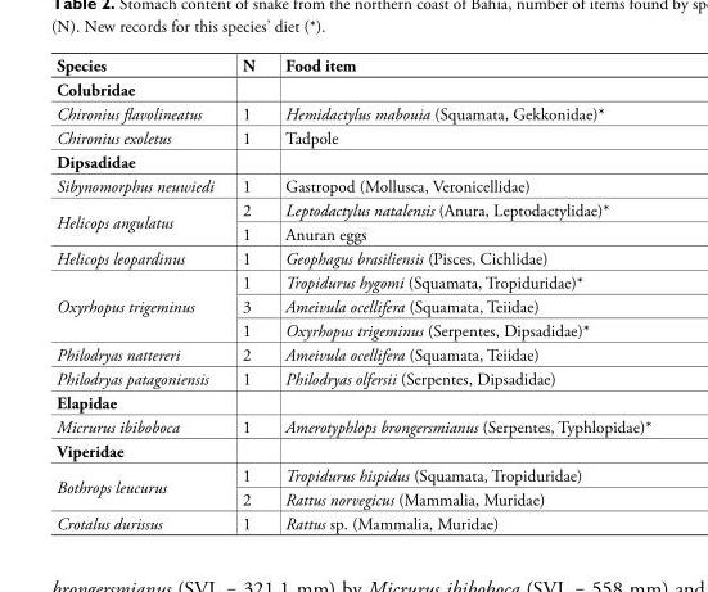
<table><thead><tr><td>Species</td><td>N</td><td>Food item</td></tr></thead><tbody><tr><td colspan="3">Colubridae</td></tr><tr><td>Chironius flavolineatus</td><td>1</td><td>Hemidactylus mabouia (Squamata, Gekkonidae)*</td></tr><tr><td>Chironius exoletus</td><td>1</td><td>Tadpole</td></tr><tr><td colspan="3">Dipsadidae</td></tr><tr><td>Sibynomorphus neuwiedi</td><td>1</td><td>Gastropod (Mollusca, Veronicellidae)</td></tr><tr><td rowspan="2">Helicops angulatus</td><td>2</td><td>Leptodactylus natalensis (Anura, Leptodactylidae)*</td></tr><tr><td>1</td><td>Anuran eggs</td></tr><tr><td>Helicops leopardinus</td><td>1</td><td>Geophagus brasiliensis (Pisces, Cichlidae)</td></tr><tr><td rowspan="3">Oxyrhopus trigeminus</td><td>1</td><td>Tropidurus hygomi (Squamata, Tropiduridae)*</td></tr><tr><td>3</td><td>Ameivula ocellifera (Squamata, Teiidae)</td></tr><tr><td>1</td><td>Oxyrhopus trigeminus (Serpentes, Dipsadidae)*</td></tr><tr><td>Philodryas nattereri</td><td>2</td><td>Ameivula ocellifera (Squamata, Teiidae)</td></tr><tr><td>Philodryas patagoniensis</td><td>1</td><td>Philodryas olfersii (Serpentes, Dipsadidae)</td></tr><tr><td colspan="3">Elapidae</td></tr><tr><td>Micrurus ibiboboca</td><td>1</td><td>Amerotyphlops brongersmianus (Serpentes, Typhlopidae)*</td></tr><tr><td colspan="3">Viperidae</td></tr><tr><td rowspan="2">Bothrops leucurus</td><td>1</td><td>Tropidurus hispidus (Squamata, Tropiduridae)</td></tr><tr><td>2</td><td>Rattus norvegicus (Mammalia, Muridae)</td></tr><tr><td>Crotalus durissus</td><td>1</td><td>Rattus sp. (Mammalia, Muridae)</td></tr></tbody></table>